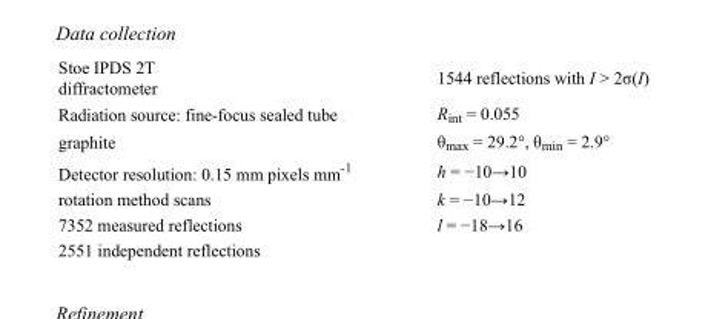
<table><tbody><tr><td>Stoe IPDS 2T diffractometer</td><td>1544 reflections with I &gt; 2σ(I)</td></tr><tr><td>Radiation source: fine-focus sealed tube</td><td>R<sub>int</sub> = 0.055</td></tr><tr><td>graphite</td><td>θ<sub>max</sub> = 29.2°, θ<sub>min</sub> = 2.9°</td></tr><tr><td>Detector resolution: 0.15 mm pixels mm<sup>-1</sup></td><td>h = −10→10</td></tr><tr><td>rotation method scans</td><td>k = −10→12</td></tr><tr><td>7352 measured reflections</td><td>l = −18→16</td></tr><tr><td>2551 independent reflections</td><td></td></tr></tbody></table>